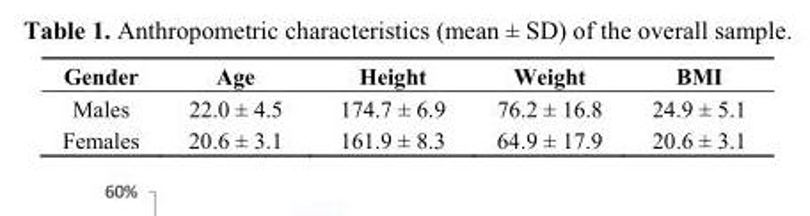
<table><thead><tr><td>Gender</td><td>Age</td><td>Height</td><td>Weight</td><td>BMI</td></tr></thead><tbody><tr><td>Males</td><td>22.0 ± 4.5</td><td>174.7 ± 6.9</td><td>76.2 ± 16.8</td><td>24.9 ± 5.1</td></tr><tr><td>Females</td><td>20.6 ± 3.1</td><td>161.9 ± 8.3</td><td>64.9 ± 17.9</td><td>20.6 ± 3.1</td></tr></tbody></table>